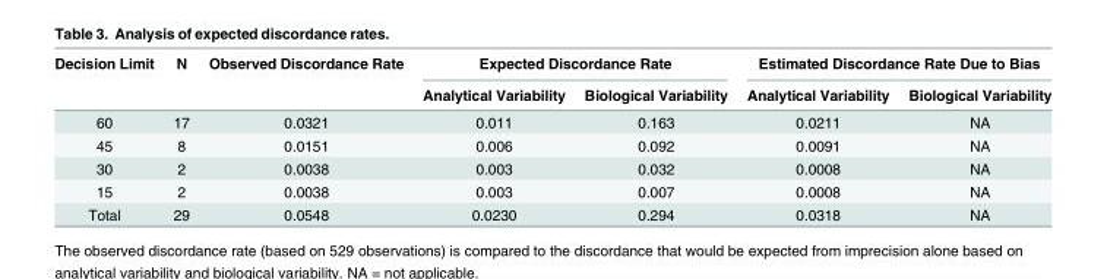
<table><thead><tr><td rowspan="2">Decision Limit</td><td rowspan="2">N</td><td rowspan="2">Observed Discordance Rate</td><td colspan="2">Expected Discordance Rate</td><td colspan="2">Estimated Discordance Rate Due to Bias</td></tr><tr><td>Analytical Variability</td><td>Biological Variability</td><td>Analytical Variability</td><td>Biological Variability</td></tr></thead><tbody><tr><td>60</td><td>17</td><td>0.0321</td><td>0.011</td><td>0.163</td><td>0.0211</td><td>NA</td></tr><tr><td>45</td><td>8</td><td>0.0151</td><td>0.006</td><td>0.092</td><td>0.0091</td><td>NA</td></tr><tr><td>30</td><td>2</td><td>0.0038</td><td>0.003</td><td>0.032</td><td>0.0008</td><td>NA</td></tr><tr><td>15</td><td>2</td><td>0.0038</td><td>0.003</td><td>0.007</td><td>0.0008</td><td>NA</td></tr><tr><td>Total</td><td>29</td><td>0.0548</td><td>0.0230</td><td>0.294</td><td>0.0318</td><td>NA</td></tr></tbody></table>